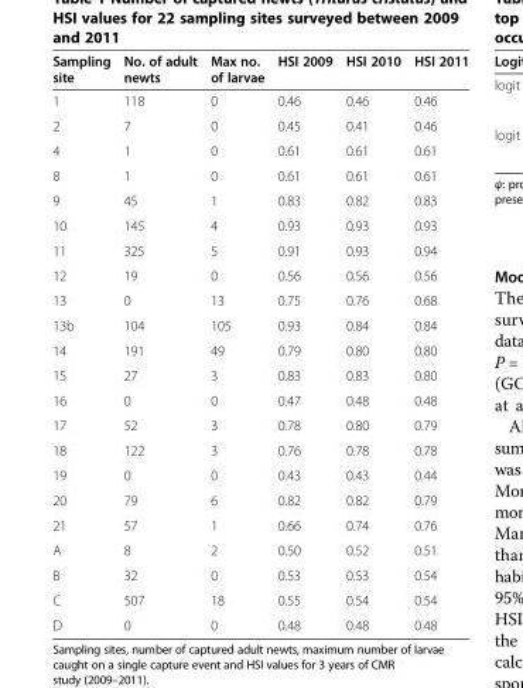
<table><thead><tr><td>Sampling site</td><td>No. of adult newts</td><td>Max no. of larvae</td><td>HSI 2009</td><td>HSI 2010</td><td>HSI 2011</td></tr></thead><tbody><tr><td>1</td><td>118</td><td>0</td><td>0.46</td><td>0.46</td><td>0.46</td></tr><tr><td>2</td><td>7</td><td>0</td><td>0.45</td><td>0.41</td><td>0.46</td></tr><tr><td>4</td><td>1</td><td>0</td><td>0.61</td><td>0.61</td><td>0.61</td></tr><tr><td>8</td><td>1</td><td>0</td><td>0.61</td><td>0.61</td><td>0.61</td></tr><tr><td>9</td><td>45</td><td>1</td><td>0.83</td><td>0.82</td><td>0.83</td></tr><tr><td>10</td><td>145</td><td>4</td><td>0.93</td><td>0.93</td><td>0.93</td></tr><tr><td>11</td><td>325</td><td>5</td><td>0.91</td><td>0.93</td><td>0.94</td></tr><tr><td>12</td><td>19</td><td>0</td><td>0.56</td><td>0.56</td><td>0.56</td></tr><tr><td>13</td><td>0</td><td>13</td><td>0.75</td><td>0.76</td><td>0.68</td></tr><tr><td>13b</td><td>104</td><td>105</td><td>0.93</td><td>0.84</td><td>0.84</td></tr><tr><td>14</td><td>191</td><td>49</td><td>0.79</td><td>0.80</td><td>0.80</td></tr><tr><td>15</td><td>27</td><td>3</td><td>0.83</td><td>0.83</td><td>0.80</td></tr><tr><td>16</td><td>0</td><td>0</td><td>0.47</td><td>0.48</td><td>0.48</td></tr><tr><td>17</td><td>52</td><td>3</td><td>0.78</td><td>0.80</td><td>0.79</td></tr><tr><td>18</td><td>122</td><td>3</td><td>0.76</td><td>0.78</td><td>0.78</td></tr><tr><td>19</td><td>0</td><td>0</td><td>0.43</td><td>0.43</td><td>0.44</td></tr><tr><td>20</td><td>79</td><td>6</td><td>0.82</td><td>0.82</td><td>0.79</td></tr><tr><td>21</td><td>57</td><td>1</td><td>0.66</td><td>0.74</td><td>0.76</td></tr><tr><td>A</td><td>8</td><td>2</td><td>0.50</td><td>0.52</td><td>0.51</td></tr><tr><td>B</td><td>32</td><td>0</td><td>0.53</td><td>0.53</td><td>0.54</td></tr><tr><td>C</td><td>507</td><td>18</td><td>0.55</td><td>0.54</td><td>0.54</td></tr><tr><td>D</td><td>0</td><td>0</td><td>0.48</td><td>0.48</td><td>0.48</td></tr></tbody></table>